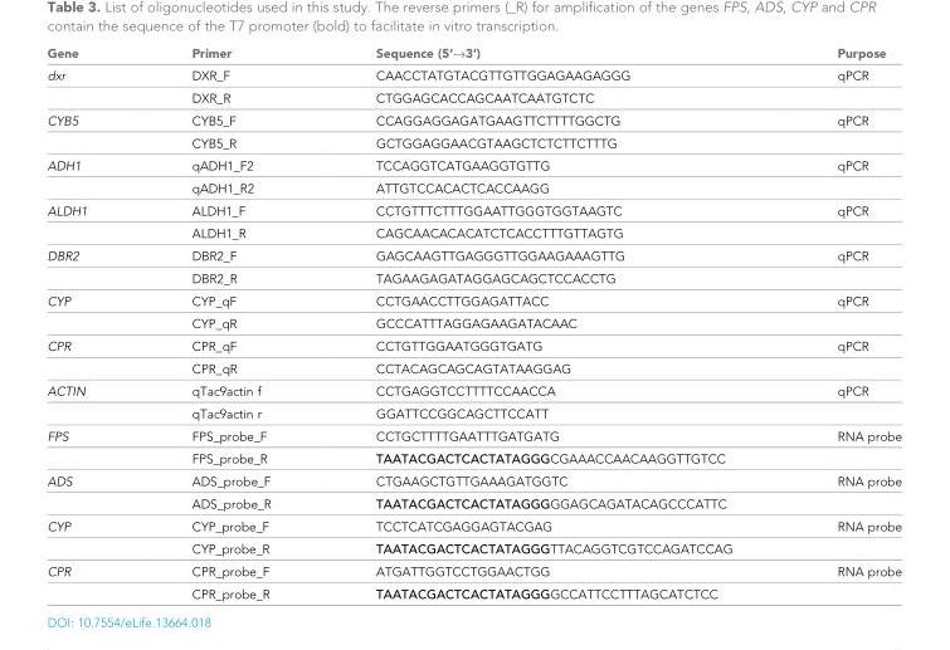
<table><thead><tr><td>Gene</td><td>Primer</td><td>Sequence (5’fi3’)</td><td>Purpose</td></tr></thead><tbody><tr><td rowspan="2">dxr</td><td>DXR_F</td><td>CAACCTATGTACGTTGTTGGAGAAGAGGG</td><td>qPCR</td></tr><tr><td>DXR_R</td><td>CTGGAGCACCAGCAATCAATGTCTC</td><td></td></tr><tr><td rowspan="2">CYB5</td><td>CYB5_F</td><td>CCAGGAGGAGATGAAGTTCTTTTGGCTG</td><td>qPCR</td></tr><tr><td>CYB5_R</td><td>GCTGGAGGAACGTAAGCTCTCTTCTTTG</td><td></td></tr><tr><td rowspan="2">ADH1</td><td>qADH1_F2</td><td>TCCAGGTCATGAAGGTGTTG</td><td>qPCR</td></tr><tr><td>qADH1_R2</td><td>ATTGTCCACACTCACCAAGG</td><td></td></tr><tr><td rowspan="2">ALDH1</td><td>ALDH1_F</td><td>CCTGTTTCTTTGGAATTGGGTGGTAAGTC</td><td>qPCR</td></tr><tr><td>ALDH1_R</td><td>CAGCAACACACATCTCACCTTTGTTAGTG</td><td></td></tr><tr><td rowspan="2">DBR2</td><td>DBR2_F</td><td>GAGCAAGTTGAGGGTTGGAAGAAAGTTG</td><td>qPCR</td></tr><tr><td>DBR2_R</td><td>TAGAAGAGATAGGAGCAGCTCCACCTG</td><td></td></tr><tr><td rowspan="2">CYP</td><td>CYP_qF</td><td>CCTGAACCTTGGAGATTACC</td><td>qPCR</td></tr><tr><td>CYP_qR</td><td>GCCCATTTAGGAGAAGATACAAC</td><td></td></tr><tr><td rowspan="2">CPR</td><td>CPR_qF</td><td>CCTGTTGGAATGGGTGATG</td><td>qPCR</td></tr><tr><td>CPR_qR</td><td>CCTACAGCAGCAGTATAAGGAG</td><td></td></tr><tr><td rowspan="2">ACTIN</td><td>qTac9actin f</td><td>CCTGAGGTCCTTTTCCAACCA</td><td>qPCR</td></tr><tr><td>qTac9actin r</td><td>GGATTCCGGCAGCTTCCATT</td><td></td></tr><tr><td rowspan="2">FPS</td><td>FPS_probe_F</td><td>CCTGCTTTTGAATTTGATGATG</td><td>RNA probe</td></tr><tr><td>FPS_probe_R</td><td>TAATACGACTCACTATAGGGCGAAACCAACAAGGTTGTCC</td><td></td></tr><tr><td rowspan="2">ADS</td><td>ADS_probe_F</td><td>CTGAAGCTGTTGAAAGATGGTC</td><td>RNA probe</td></tr><tr><td>ADS_probe_R</td><td>TAATACGACTCACTATAGGGGGAGCAGATACAGCCCATTC</td><td></td></tr><tr><td rowspan="2">CYP</td><td>CYP_probe_F</td><td>TCCTCATCGAGGAGTACGAG</td><td>RNA probe</td></tr><tr><td>CYP_probe_R</td><td>TAATACGACTCACTATAGGGTTACAGGTCGTCCAGATCCAG</td><td></td></tr><tr><td rowspan="2">CPR</td><td>CPR_probe_F</td><td>ATGATTGGTCCTGGAACTGG</td><td>RNA probe</td></tr><tr><td>CPR_probe_R</td><td>TAATACGACTCACTATAGGGGCCATTCCTTTAGCATCTCC</td><td></td></tr></tbody></table>